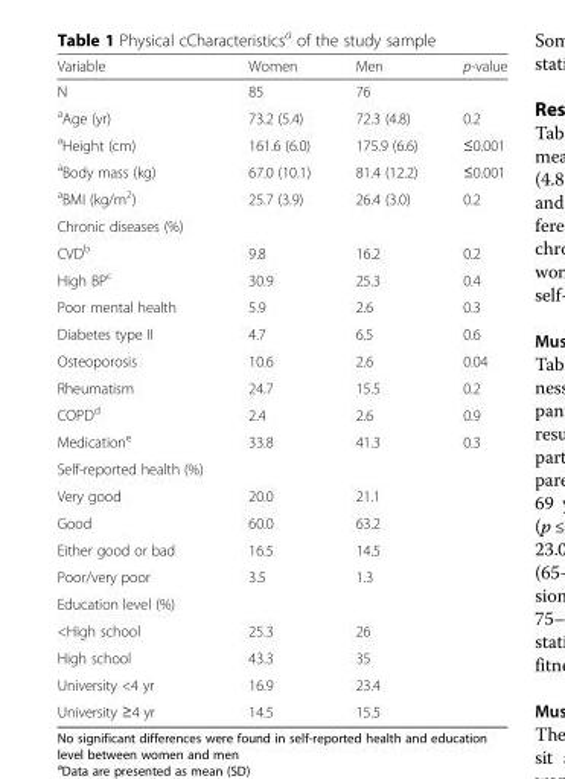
<table><thead><tr><td>Variable</td><td>Women</td><td>Men</td><td>p-value</td></tr></thead><tbody><tr><td>N</td><td>85</td><td>76</td><td></td></tr><tr><td><sup>a</sup>Age (yr)</td><td>73.2 (5.4)</td><td>72.3 (4.8)</td><td>0.2</td></tr><tr><td><sup>a</sup>Height (cm)</td><td>161.6 (6.0)</td><td>175.9 (6.6)</td><td>≤0.001</td></tr><tr><td><sup>a</sup>Body mass (kg)</td><td>67.0 (10.1)</td><td>81.4 (12.2)</td><td>≤0.001</td></tr><tr><td><sup>a</sup>BMI (kg/m<sup>2</sup>)</td><td>25.7 (3.9)</td><td>26.4 (3.0)</td><td>0.2</td></tr><tr><td colspan="4">Chronic diseases (%)</td></tr><tr><td>CVD<sup>b</sup></td><td>9.8</td><td>16.2</td><td>0.2</td></tr><tr><td>High BP<sup>c</sup></td><td>30.9</td><td>25.3</td><td>0.4</td></tr><tr><td>Poor mental health</td><td>5.9</td><td>2.6</td><td>0.3</td></tr><tr><td>Diabetes type II</td><td>4.7</td><td>6.5</td><td>0.6</td></tr><tr><td>Osteoporosis</td><td>10.6</td><td>2.6</td><td>0.04</td></tr><tr><td>Rheumatism</td><td>24.7</td><td>15.5</td><td>0.2</td></tr><tr><td>COPD<sup>d</sup></td><td>2.4</td><td>2.6</td><td>0.9</td></tr><tr><td>Medication<sup>e</sup></td><td>33.8</td><td>41.3</td><td>0.3</td></tr><tr><td colspan="4">Self-reported health (%)</td></tr><tr><td>Very good</td><td>20.0</td><td>21.1</td><td></td></tr><tr><td>Good</td><td>60.0</td><td>63.2</td><td></td></tr><tr><td>Either good or bad</td><td>16.5</td><td>14.5</td><td></td></tr><tr><td>Poor/very poor</td><td>3.5</td><td>1.3</td><td></td></tr><tr><td colspan="4">Education level (%)</td></tr><tr><td>&lt;High school</td><td>25.3</td><td>26</td><td></td></tr><tr><td>High school</td><td>43.3</td><td>35</td><td></td></tr><tr><td>University &lt;4 yr</td><td>16.9</td><td>23.4</td><td></td></tr><tr><td>University ≥4 yr</td><td>14.5</td><td>15.5</td><td></td></tr></tbody></table>